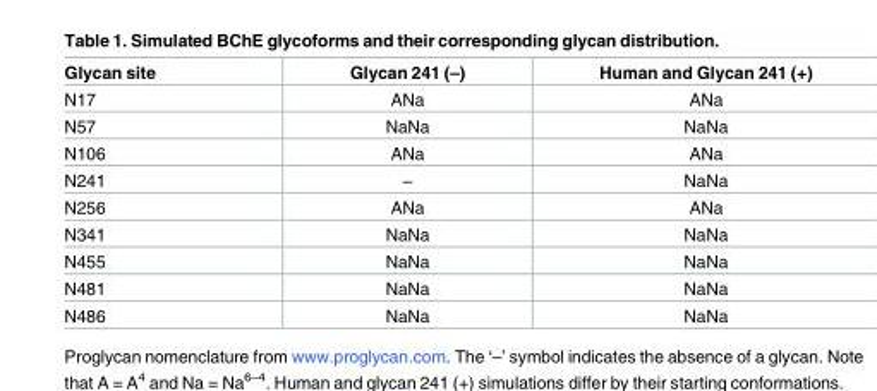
<table><thead><tr><td>Glycan site</td><td>Glycan 241 (–)</td><td>Human and Glycan 241 (+)</td></tr></thead><tbody><tr><td>N17</td><td>ANa</td><td>ANa</td></tr><tr><td>N57</td><td>NaNa</td><td>NaNa</td></tr><tr><td>N106</td><td>ANa</td><td>ANa</td></tr><tr><td>N241</td><td>–</td><td>NaNa</td></tr><tr><td>N256</td><td>ANa</td><td>ANa</td></tr><tr><td>N341</td><td>NaNa</td><td>NaNa</td></tr><tr><td>N455</td><td>NaNa</td><td>NaNa</td></tr><tr><td>N481</td><td>NaNa</td><td>NaNa</td></tr><tr><td>N486</td><td>NaNa</td><td>NaNa</td></tr></tbody></table>